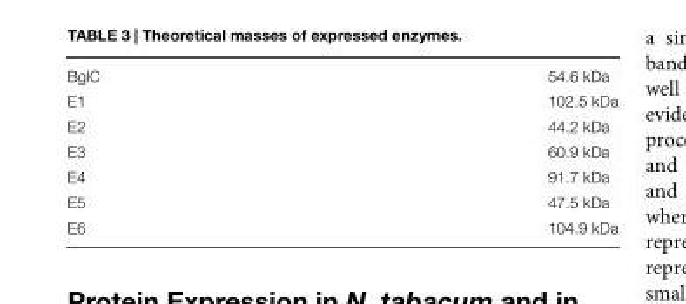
<table><tbody><tr><td>BglC</td><td>54.6 kDa</td></tr><tr><td>E1</td><td>102.5 kDa</td></tr><tr><td>E2</td><td>44.2 kDa</td></tr><tr><td>E3</td><td>60.9 kDa</td></tr><tr><td>E4</td><td>91.7 kDa</td></tr><tr><td>E5</td><td>47.5 kDa</td></tr><tr><td>E6</td><td>104.9 kDa</td></tr></tbody></table>